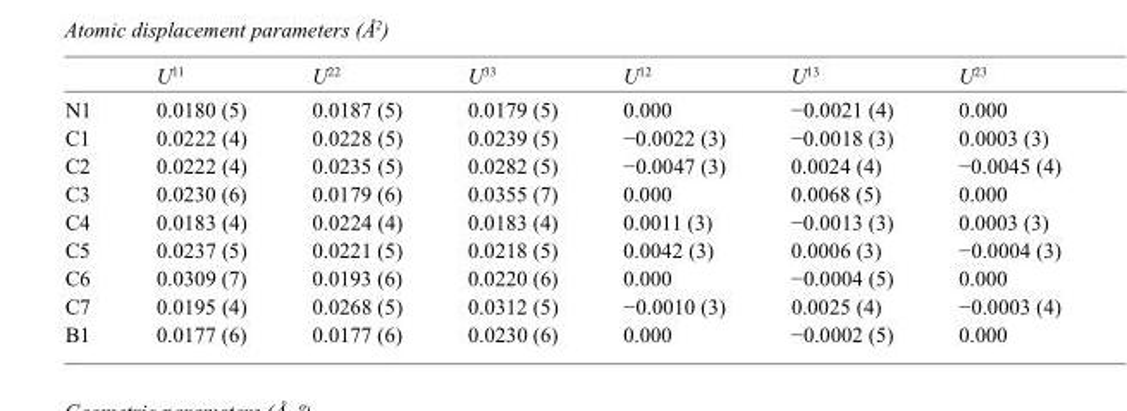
<table><thead><tr><td></td><td>U<sup>11</sup></td><td>U<sup>22</sup></td><td>U<sup>33</sup></td><td>U<sup>12</sup></td><td>U<sup>13</sup></td><td>U<sup>23</sup></td></tr></thead><tbody><tr><td>N1</td><td>0.0180 (5)</td><td>0.0187 (5)</td><td>0.0179 (5)</td><td>0.000</td><td>−0.0021 (4)</td><td>0.000</td></tr><tr><td>C1</td><td>0.0222 (4)</td><td>0.0228 (5)</td><td>0.0239 (5)</td><td>−0.0022 (3)</td><td>−0.0018 (3)</td><td>0.0003 (3)</td></tr><tr><td>C2</td><td>0.0222 (4)</td><td>0.0235 (5)</td><td>0.0282 (5)</td><td>−0.0047 (3)</td><td>0.0024 (4)</td><td>−0.0045 (4)</td></tr><tr><td>C3</td><td>0.0230 (6)</td><td>0.0179 (6)</td><td>0.0355 (7)</td><td>0.000</td><td>0.0068 (5)</td><td>0.000</td></tr><tr><td>C4</td><td>0.0183 (4)</td><td>0.0224 (4)</td><td>0.0183 (4)</td><td>0.0011 (3)</td><td>−0.0013 (3)</td><td>0.0003 (3)</td></tr><tr><td>C5</td><td>0.0237 (5)</td><td>0.0221 (5)</td><td>0.0218 (5)</td><td>0.0042 (3)</td><td>0.0006 (3)</td><td>−0.0004 (3)</td></tr><tr><td>C6</td><td>0.0309 (7)</td><td>0.0193 (6)</td><td>0.0220 (6)</td><td>0.000</td><td>−0.0004 (5)</td><td>0.000</td></tr><tr><td>C7</td><td>0.0195 (4)</td><td>0.0268 (5)</td><td>0.0312 (5)</td><td>−0.0010 (3)</td><td>0.0025 (4)</td><td>−0.0003 (4)</td></tr><tr><td>B1</td><td>0.0177 (6)</td><td>0.0177 (6)</td><td>0.0230 (6)</td><td>0.000</td><td>−0.0002 (5)</td><td>0.000</td></tr></tbody></table>